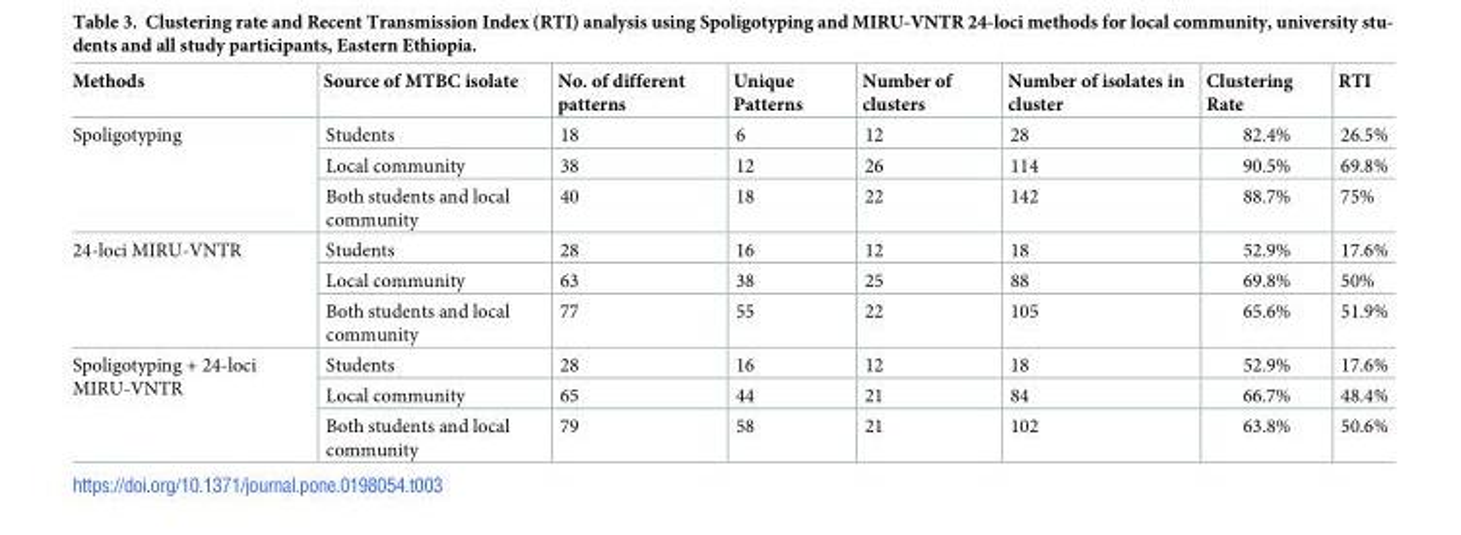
<table><thead><tr><td>Methods</td><td>Source of MTBC isolate</td><td>No. of different patterns</td><td>Unique Patterns</td><td>Number of clusters</td><td>Number of isolates in cluster</td><td>Clustering Rate</td><td>RTI</td></tr></thead><tbody><tr><td rowspan="3">Spoligotyping</td><td>Students</td><td>18</td><td>6</td><td>12</td><td>28</td><td>82.4%</td><td>26.5%</td></tr><tr><td>Local community</td><td>38</td><td>12</td><td>26</td><td>114</td><td>90.5%</td><td>69.8%</td></tr><tr><td>Both students and local community</td><td>40</td><td>18</td><td>22</td><td>142</td><td>88.7%</td><td>75%</td></tr><tr><td rowspan="3">24-loci MIRU-VNTR</td><td>Students</td><td>28</td><td>16</td><td>12</td><td>18</td><td>52.9%</td><td>17.6%</td></tr><tr><td>Local community</td><td>63</td><td>38</td><td>25</td><td>88</td><td>69.8%</td><td>50%</td></tr><tr><td>Both students and local community</td><td>77</td><td>55</td><td>22</td><td>105</td><td>65.6%</td><td>51.9%</td></tr><tr><td rowspan="3">Spoligotyping + 24-loci MIRU-VNTR</td><td>Students</td><td>28</td><td>16</td><td>12</td><td>18</td><td>52.9%</td><td>17.6%</td></tr><tr><td>Local community</td><td>65</td><td>44</td><td>21</td><td>84</td><td>66.7%</td><td>48.4%</td></tr><tr><td>Both students and local community</td><td>79</td><td>58</td><td>21</td><td>102</td><td>63.8%</td><td>50.6%</td></tr></tbody></table>